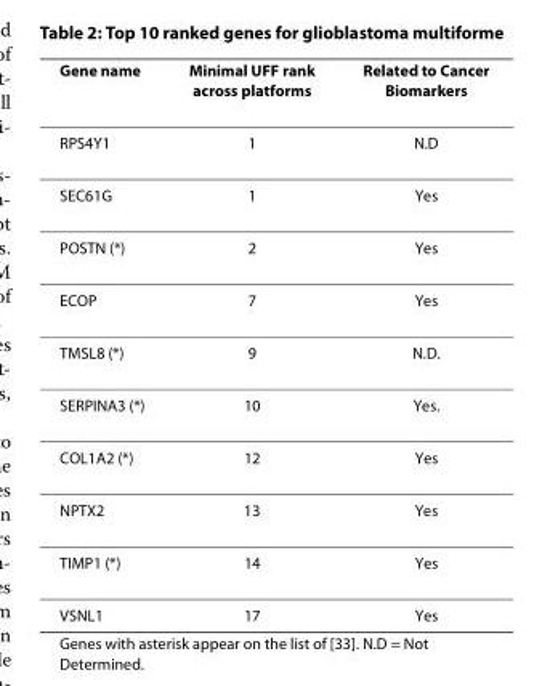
<table><thead><tr><td>Gene name</td><td>Minimal UFF rank across platforms</td><td>Related to Cancer Biomarkers</td></tr></thead><tbody><tr><td>RPS4Y1</td><td>1</td><td>N.D</td></tr><tr><td>SEC61G</td><td>1</td><td>Yes</td></tr><tr><td>POSTN (*)</td><td>2</td><td>Yes</td></tr><tr><td>ECOP</td><td>7</td><td>Yes</td></tr><tr><td>TMSL8 (*)</td><td>9</td><td>N.D.</td></tr><tr><td>SERPINA3 (*)</td><td>10</td><td>Yes.</td></tr><tr><td>COL1A2 (*)</td><td>12</td><td>Yes</td></tr><tr><td>NPTX2</td><td>13</td><td>Yes</td></tr><tr><td>TIMP1 (*)</td><td>14</td><td>Yes</td></tr><tr><td>VSNL1</td><td>17</td><td>Yes</td></tr></tbody></table>